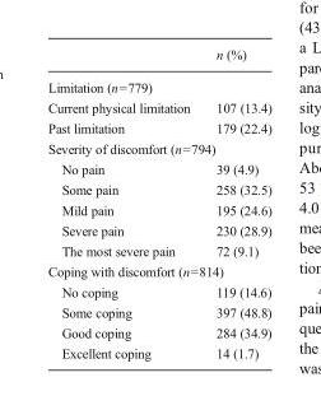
<table><thead><tr><td></td><td>n (%)</td></tr></thead><tbody><tr><td colspan="2">Limitation (n=779)</td></tr><tr><td>Current physical limitation</td><td>107 (13.4)</td></tr><tr><td>Past limitation</td><td>179 (22.4)</td></tr><tr><td colspan="2">Severity of discomfort (n=794)</td></tr><tr><td>No pain</td><td>39 (4.9)</td></tr><tr><td>Some pain</td><td>258 (32.5)</td></tr><tr><td>Mild pain</td><td>195 (24.6)</td></tr><tr><td>Severe pain</td><td>230 (28.9)</td></tr><tr><td>The most severe pain</td><td>72 (9.1)</td></tr><tr><td colspan="2">Coping with discomfort (n=814)</td></tr><tr><td>No coping</td><td>119 (14.6)</td></tr><tr><td>Some coping</td><td>397 (48.8)</td></tr><tr><td>Good coping</td><td>284 (34.9)</td></tr><tr><td>Excellent coping</td><td>14 (1.7)</td></tr></tbody></table>